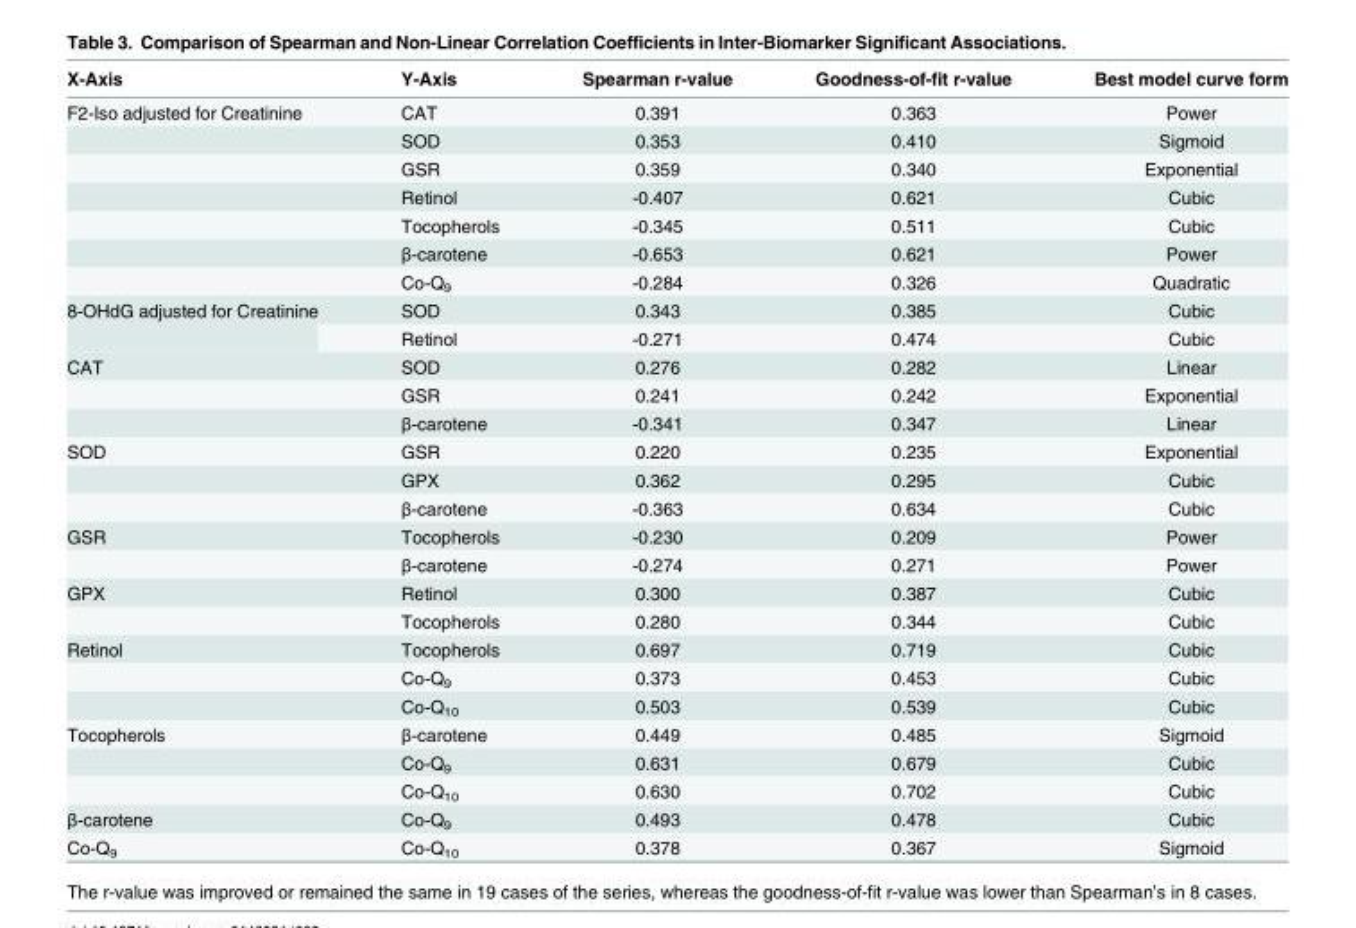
<table><thead><tr><td>X-Axis</td><td>Y-Axis</td><td>Spearman r-value</td><td>Goodness-of-fit r-value</td><td>Best model curve form</td></tr></thead><tbody><tr><td rowspan="7">F2-Iso adjusted for Creatinine</td><td>CAT</td><td>0.391</td><td>0.363</td><td>Power</td></tr><tr><td>SOD</td><td>0.353</td><td>0.410</td><td>Sigmoid</td></tr><tr><td>GSR</td><td>0.359</td><td>0.340</td><td>Exponential</td></tr><tr><td>Retinol</td><td>-0.407</td><td>0.621</td><td>Cubic</td></tr><tr><td>Tocopherols</td><td>-0.345</td><td>0.511</td><td>Cubic</td></tr><tr><td>β-carotene</td><td>-0.653</td><td>0.621</td><td>Power</td></tr><tr><td>Co-Q<sub>9</sub></td><td>-0.284</td><td>0.326</td><td>Quadratic</td></tr><tr><td rowspan="2">8-OHdG adjusted for Creatinine</td><td>SOD</td><td>0.343</td><td>0.385</td><td>Cubic</td></tr><tr><td>Retinol</td><td>-0.271</td><td>0.474</td><td>Cubic</td></tr><tr><td rowspan="3">CAT</td><td>SOD</td><td>0.276</td><td>0.282</td><td>Linear</td></tr><tr><td>GSR</td><td>0.241</td><td>0.242</td><td>Exponential</td></tr><tr><td>β-carotene</td><td>-0.341</td><td>0.347</td><td>Linear</td></tr><tr><td rowspan="3">SOD</td><td>GSR</td><td>0.220</td><td>0.235</td><td>Exponential</td></tr><tr><td>GPX</td><td>0.362</td><td>0.295</td><td>Cubic</td></tr><tr><td>β-carotene</td><td>-0.363</td><td>0.634</td><td>Cubic</td></tr><tr><td rowspan="2">GSR</td><td>Tocopherols</td><td>-0.230</td><td>0.209</td><td>Power</td></tr><tr><td>β-carotene</td><td>-0.274</td><td>0.271</td><td>Power</td></tr><tr><td rowspan="2">GPX</td><td>Retinol</td><td>0.300</td><td>0.387</td><td>Cubic</td></tr><tr><td>Tocopherols</td><td>0.280</td><td>0.344</td><td>Cubic</td></tr><tr><td rowspan="3">Retinol</td><td>Tocopherols</td><td>0.697</td><td>0.719</td><td>Cubic</td></tr><tr><td>Co-Q<sub>9</sub></td><td>0.373</td><td>0.453</td><td>Cubic</td></tr><tr><td>Co-Q<sub>10</sub></td><td>0.503</td><td>0.539</td><td>Cubic</td></tr><tr><td rowspan="3">Tocopherols</td><td>β-carotene</td><td>0.449</td><td>0.485</td><td>Sigmoid</td></tr><tr><td>Co-Q<sub>9</sub></td><td>0.631</td><td>0.679</td><td>Cubic</td></tr><tr><td>Co-Q<sub>10</sub></td><td>0.630</td><td>0.702</td><td>Cubic</td></tr><tr><td>β-carotene</td><td>Co-Q<sub>9</sub></td><td>0.493</td><td>0.478</td><td>Cubic</td></tr><tr><td>Co-Q<sub>9</sub></td><td>Co-Q<sub>10</sub></td><td>0.378</td><td>0.367</td><td>Sigmoid</td></tr></tbody></table>